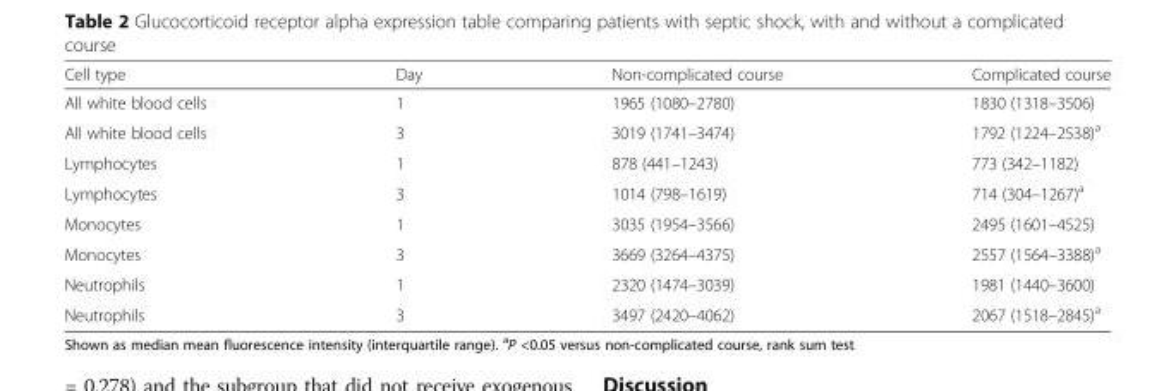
<table><thead><tr><td>Cell type</td><td>Day</td><td>Non-complicated course</td><td>Complicated course</td></tr></thead><tbody><tr><td>All white blood cells</td><td>1</td><td>1965 (1080–2780)</td><td>1830 (1318–3506)</td></tr><tr><td>All white blood cells</td><td>3</td><td>3019 (1741–3474)</td><td>1792 (1224–2538)<sup>a</sup></td></tr><tr><td>Lymphocytes</td><td>1</td><td>878 (441–1243)</td><td>773 (342–1182)</td></tr><tr><td>Lymphocytes</td><td>3</td><td>1014 (798–1619)</td><td>714 (304–1267)<sup>a</sup></td></tr><tr><td>Monocytes</td><td>1</td><td>3035 (1954–3566)</td><td>2495 (1601–4525)</td></tr><tr><td>Monocytes</td><td>3</td><td>3669 (3264–4375)</td><td>2557 (1564–3388)<sup>a</sup></td></tr><tr><td>Neutrophils</td><td>1</td><td>2320 (1474–3039)</td><td>1981 (1440–3600)</td></tr><tr><td>Neutrophils</td><td>3</td><td>3497 (2420–4062)</td><td>2067 (1518–2845)<sup>a</sup></td></tr></tbody></table>